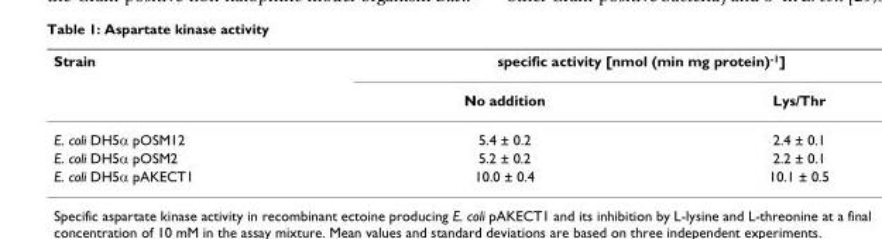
<table><thead><tr><td rowspan="2">Strain</td><td colspan="2">specific activity [nmol (min mg protein)<sup>-1</sup>]</td></tr><tr><td>No addition</td><td>Lys/Thr</td></tr></thead><tbody><tr><td>E. coli DH5α pOSM12</td><td>5.4 ± 0.2</td><td>2.4 ± 0.1</td></tr><tr><td>E. coli DH5α pOSM2</td><td>5.2 ± 0.2</td><td>2.2 ± 0.1</td></tr><tr><td>E. coli DH5α pAKECT1</td><td>10.0 ± 0.4</td><td>10.1 ± 0.5</td></tr></tbody></table>